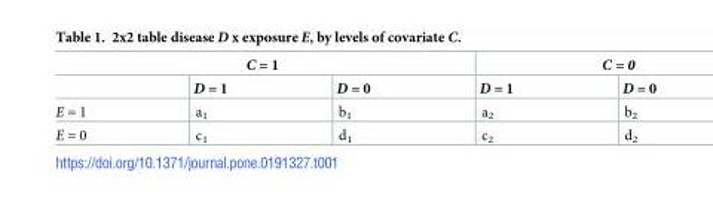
<table><thead><tr><td colspan="3">C = 1</td><td colspan="2">C = 0</td></tr><tr><td></td><td>D = 1</td><td>D = 0</td><td>D = 1</td><td>D = 0</td></tr></thead><tbody><tr><td>E = 1</td><td>a<sub>1</sub></td><td>b<sub>1</sub></td><td>a<sub>2</sub></td><td>b<sub>2</sub></td></tr><tr><td>E = 0</td><td>c<sub>1</sub></td><td>d<sub>1</sub></td><td>c<sub>2</sub></td><td>d<sub>2</sub></td></tr></tbody></table>